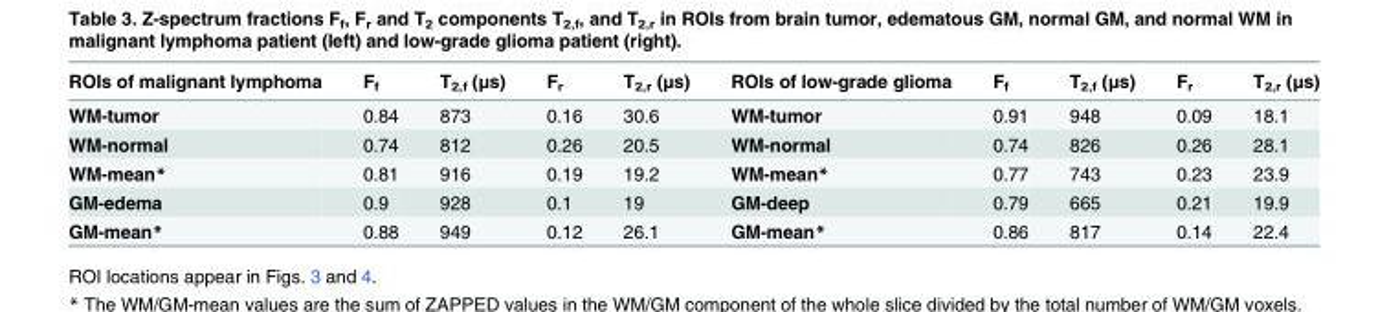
<table><thead><tr><td>ROIs of malignant lymphoma</td><td>F<sub>f</sub></td><td>T<sub>2,f</sub> (μs)</td><td>F<sub>r</sub></td><td>T<sub>2,r</sub> (μs)</td><td>ROIs of low-grade glioma</td><td>F<sub>f</sub></td><td>T<sub>2,f</sub> (μs)</td><td>F<sub>r</sub></td><td>T<sub>2,r</sub> (μs)</td></tr></thead><tbody><tr><td>WM-tumor</td><td>0.84</td><td>873</td><td>0.16</td><td>30.6</td><td>WM-tumor</td><td>0.91</td><td>948</td><td>0.09</td><td>18.1</td></tr><tr><td>WM-normal</td><td>0.74</td><td>812</td><td>0.26</td><td>20.5</td><td>WM-normal</td><td>0.74</td><td>826</td><td>0.26</td><td>28.1</td></tr><tr><td>WM-mean*</td><td>0.81</td><td>916</td><td>0.19</td><td>19.2</td><td>WM-mean*</td><td>0.77</td><td>743</td><td>0.23</td><td>23.9</td></tr><tr><td>GM-edema</td><td>0.9</td><td>928</td><td>0.1</td><td>19</td><td>GM-deep</td><td>0.79</td><td>665</td><td>0.21</td><td>19.9</td></tr><tr><td>GM-mean*</td><td>0.88</td><td>949</td><td>0.12</td><td>26.1</td><td>GM-mean*</td><td>0.86</td><td>817</td><td>0.14</td><td>22.4</td></tr></tbody></table>